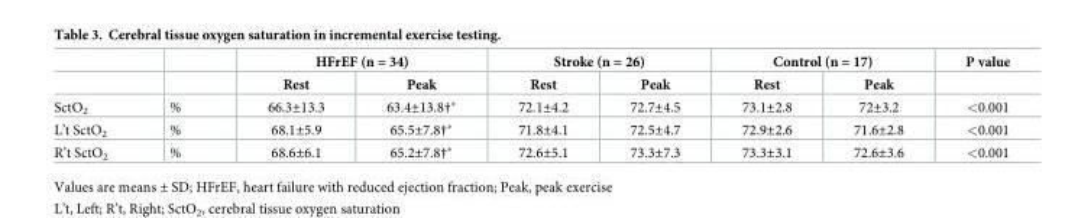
<table><thead><tr><td rowspan="2"></td><td rowspan="2"></td><td colspan="2">HFrEF (n = 34)</td><td colspan="2">Stroke (n = 26)</td><td colspan="2">Control (n = 17)</td><td rowspan="2">P value</td></tr><tr><td>Rest</td><td>Peak</td><td>Rest</td><td>Peak</td><td>Rest</td><td>Peak</td></tr></thead><tbody><tr><td>SctO<sub>2</sub></td><td>%</td><td>66.3±13.3</td><td>63.4±13.8†*</td><td>72.1±4.2</td><td>72.7±4.5</td><td>73.1±2.8</td><td>72±3.2</td><td>&lt;0.001</td></tr><tr><td>L’t SctO<sub>2</sub></td><td>%</td><td>68.1±5.9</td><td>65.5±7.8†*</td><td>71.8±4.1</td><td>72.5±4.7</td><td>72.9±2.6</td><td>71.6±2.8</td><td>&lt;0.001</td></tr><tr><td>R’t SctO<sub>2</sub></td><td>%</td><td>68.6±6.1</td><td>65.2±7.8†*</td><td>72.6±5.1</td><td>73.3±7.3</td><td>73.3±3.1</td><td>72.6±3.6</td><td>&lt;0.001</td></tr></tbody></table>